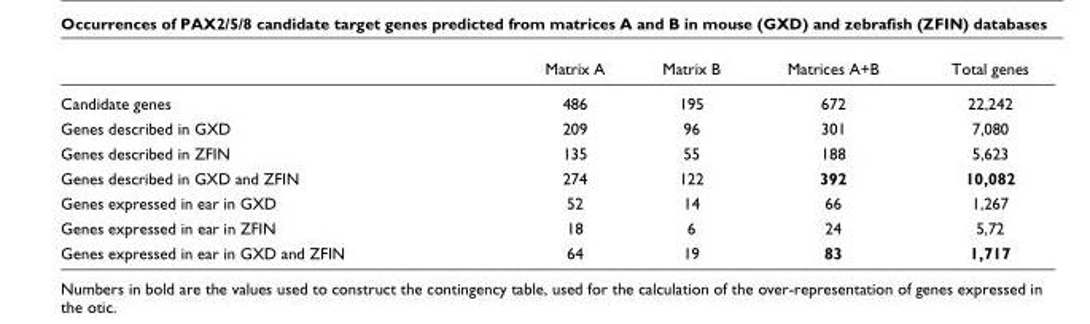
<table><thead><tr><td></td><td>Matrix A</td><td>Matrix B</td><td>Matrices A+B</td><td>Total genes</td></tr></thead><tbody><tr><td>Candidate genes</td><td>486</td><td>195</td><td>672</td><td>22,242</td></tr><tr><td>Genes described in GXD</td><td>209</td><td>96</td><td>301</td><td>7,080</td></tr><tr><td>Genes described in ZFIN</td><td>135</td><td>55</td><td>188</td><td>5,623</td></tr><tr><td>Genes described in GXD and ZFIN</td><td>274</td><td>122</td><td>392</td><td>10,082</td></tr><tr><td>Genes expressed in ear in GXD</td><td>52</td><td>14</td><td>66</td><td>1,267</td></tr><tr><td>Genes expressed in ear in ZFIN</td><td>18</td><td>6</td><td>24</td><td>5,72</td></tr><tr><td>Genes expressed in ear in GXD and ZFIN</td><td>64</td><td>19</td><td>83</td><td>1,717</td></tr></tbody></table>